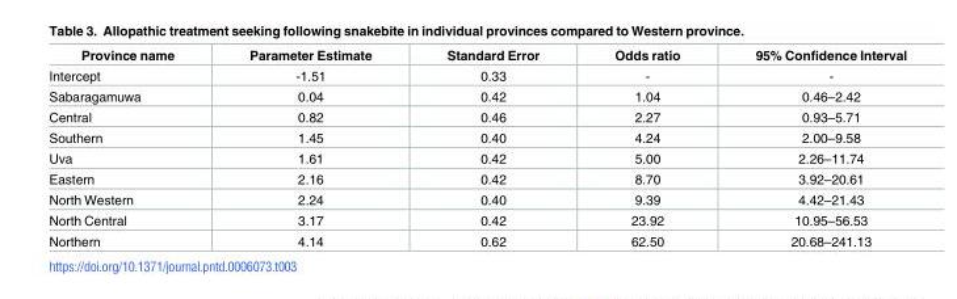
<table><thead><tr><td>Province name</td><td>Parameter Estimate</td><td>Standard Error</td><td>Odds ratio</td><td>95% Confidence Interval</td></tr></thead><tbody><tr><td>Intercept</td><td>-1.51</td><td>0.33</td><td>-</td><td>-</td></tr><tr><td>Sabaragamuwa</td><td>0.04</td><td>0.42</td><td>1.04</td><td>0.46–2.42</td></tr><tr><td>Central</td><td>0.82</td><td>0.46</td><td>2.27</td><td>0.93–5.71</td></tr><tr><td>Southern</td><td>1.45</td><td>0.40</td><td>4.24</td><td>2.00–9.58</td></tr><tr><td>Uva</td><td>1.61</td><td>0.42</td><td>5.00</td><td>2.26–11.74</td></tr><tr><td>Eastern</td><td>2.16</td><td>0.42</td><td>8.70</td><td>3.92–20.61</td></tr><tr><td>North Western</td><td>2.24</td><td>0.40</td><td>9.39</td><td>4.42–21.43</td></tr><tr><td>North Central</td><td>3.17</td><td>0.42</td><td>23.92</td><td>10.95–56.53</td></tr><tr><td>Northern</td><td>4.14</td><td>0.62</td><td>62.50</td><td>20.68–241.13</td></tr></tbody></table>